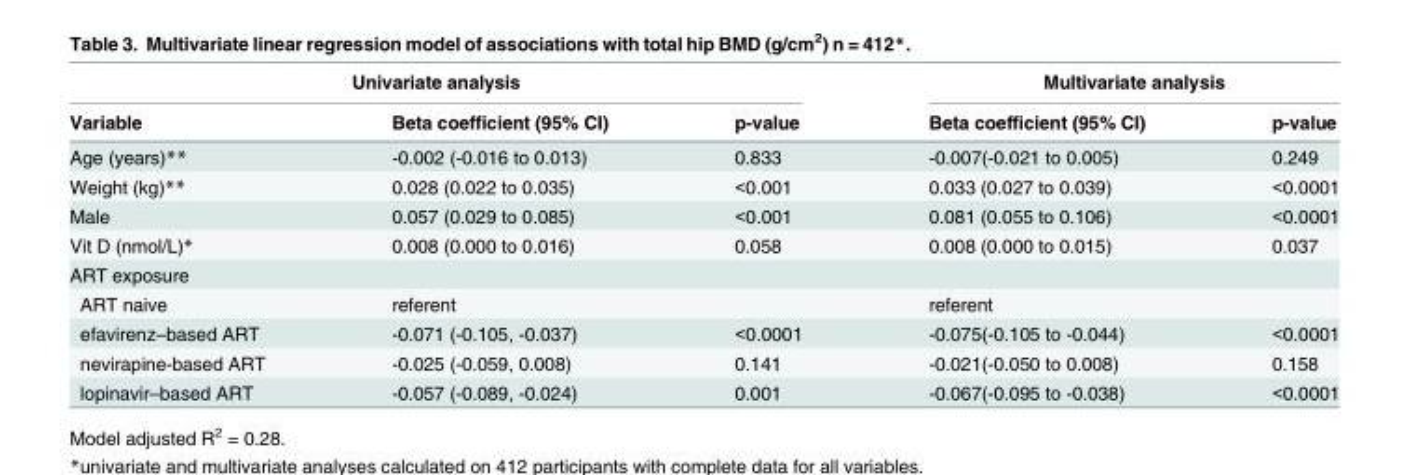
<table><thead><tr><td colspan="3">Univariate analysis</td><td colspan="2">Multivariate analysis</td></tr><tr><td>Variable</td><td>Beta coefficient (95% CI)</td><td>p-value</td><td>Beta coefficient (95% CI)</td><td>p-value</td></tr></thead><tbody><tr><td>Age (years)**</td><td>-0.002 (-0.016 to 0.013)</td><td>0.833</td><td>-0.007(-0.021 to 0.005)</td><td>0.249</td></tr><tr><td>Weight (kg)**</td><td>0.028 (0.022 to 0.035)</td><td>&lt;0.001</td><td>0.033 (0.027 to 0.039)</td><td>&lt;0.0001</td></tr><tr><td>Male</td><td>0.057 (0.029 to 0.085)</td><td>&lt;0.001</td><td>0.081 (0.055 to 0.106)</td><td>&lt;0.0001</td></tr><tr><td>Vit D (nmol/L)*</td><td>0.008 (0.000 to 0.016)</td><td>0.058</td><td>0.008 (0.000 to 0.015)</td><td>0.037</td></tr><tr><td colspan="5">ART exposure</td></tr><tr><td>ART naive</td><td>referent</td><td></td><td>referent</td><td></td></tr><tr><td>efavirenz–based ART</td><td>-0.071 (-0.105, -0.037)</td><td>&lt;0.0001</td><td>-0.075(-0.105 to -0.044)</td><td>&lt;0.0001</td></tr><tr><td>nevirapine-based ART</td><td>-0.025 (-0.059, 0.008)</td><td>0.141</td><td>-0.021(-0.050 to 0.008)</td><td>0.158</td></tr><tr><td>lopinavir–based ART</td><td>-0.057 (-0.089, -0.024)</td><td>0.001</td><td>-0.067(-0.095 to -0.038)</td><td>&lt;0.0001</td></tr></tbody></table>